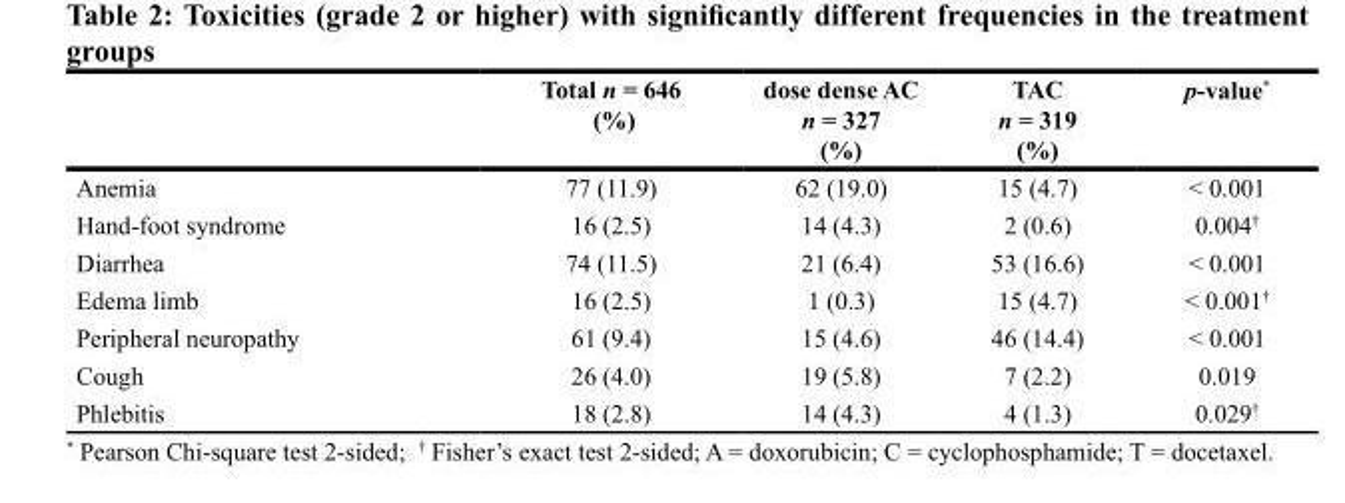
<table><thead><tr><td></td><td>Total n = 646 (%)</td><td>dose dense AC n = 327 (%)</td><td>TAC n = 319 (%)</td><td>p-value*</td></tr></thead><tbody><tr><td>Anemia</td><td>77 (11.9)</td><td>62 (19.0)</td><td>15 (4.7)</td><td>&lt; 0.001</td></tr><tr><td>Hand-foot syndrome</td><td>16 (2.5)</td><td>14 (4.3)</td><td>2 (0.6)</td><td>0.004<sup>†</sup></td></tr><tr><td>Diarrhea</td><td>74 (11.5)</td><td>21 (6.4)</td><td>53 (16.6)</td><td>&lt; 0.001</td></tr><tr><td>Edema limb</td><td>16 (2.5)</td><td>1 (0.3)</td><td>15 (4.7)</td><td>&lt; 0.001<sup>†</sup></td></tr><tr><td>Peripheral neuropathy</td><td>61 (9.4)</td><td>15 (4.6)</td><td>46 (14.4)</td><td>&lt; 0.001</td></tr><tr><td>Cough</td><td>26 (4.0)</td><td>19 (5.8)</td><td>7 (2.2)</td><td>0.019</td></tr><tr><td>Phlebitis</td><td>18 (2.8)</td><td>14 (4.3)</td><td>4 (1.3)</td><td>0.029<sup>†</sup></td></tr></tbody></table>